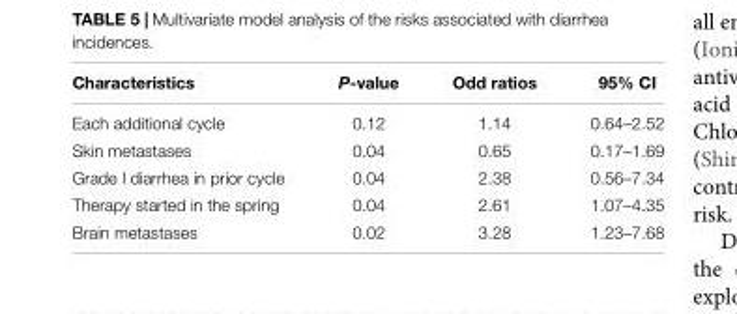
<table><thead><tr><td>Characteristics</td><td>P-value</td><td>Odd ratios</td><td>95% CI</td></tr></thead><tbody><tr><td>Each additional cycle</td><td>0.12</td><td>1.14</td><td>0.64–2.52</td></tr><tr><td>Skin metastases</td><td>0.04</td><td>0.65</td><td>0.17–1.69</td></tr><tr><td>Grade I diarrhea in prior cycle</td><td>0.04</td><td>2.38</td><td>0.56–7.34</td></tr><tr><td>Therapy started in the spring</td><td>0.04</td><td>2.61</td><td>1.07–4.35</td></tr><tr><td>Brain metastases</td><td>0.02</td><td>3.28</td><td>1.23–7.68</td></tr></tbody></table>